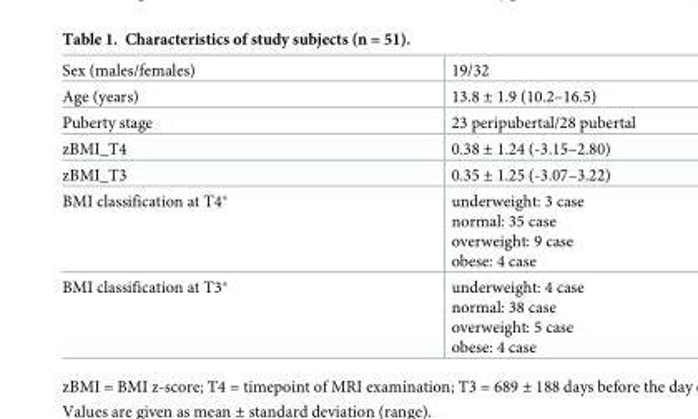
<table><tbody><tr><td>Sex (males/females)</td><td>19/32</td></tr><tr><td>Age (years)</td><td>13.8 ± 1.9 (10.2–16.5)</td></tr><tr><td>Puberty stage</td><td>23 peripubertal/28 pubertal</td></tr><tr><td>zBMI_T4</td><td>0.38 ± 1.24 (-3.15–2.80)</td></tr><tr><td>zBMI_T3</td><td>0.35 ± 1.25 (-3.07–3.22)</td></tr><tr><td>BMI classification at T4*</td><td>underweight: 3 case normal: 35 case overweight: 9 case obese: 4 case</td></tr><tr><td>BMI classification at T3*</td><td>underweight: 4 case normal: 38 case overweight: 5 case obese: 4 case</td></tr></tbody></table>